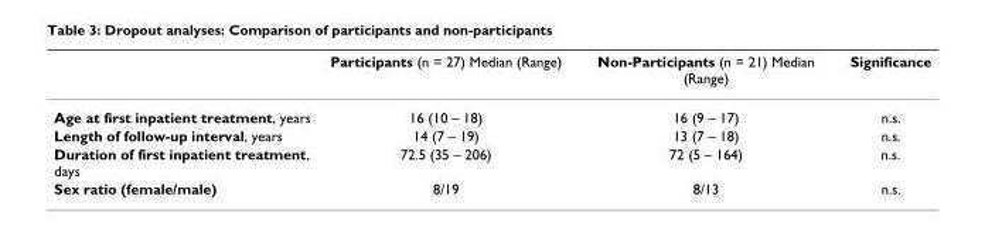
<table><thead><tr><td></td><td>Participants (n = 27) Median (Range)</td><td>Non-Participants (n = 21) Median (Range)</td><td>Significance</td></tr></thead><tbody><tr><td>Age at first inpatient treatment, years</td><td>16 (10 – 18)</td><td>16 (9 – 17)</td><td>n.s.</td></tr><tr><td>Length of follow-up interval, years</td><td>14 (7 – 19)</td><td>13 (7 – 18)</td><td>n.s.</td></tr><tr><td>Duration of first inpatient treatment, days</td><td>72.5 (35 – 206)</td><td>72 (5 – 164)</td><td>n.s.</td></tr><tr><td>Sex ratio (female/male)</td><td>8/19</td><td>8/13</td><td>n.s.</td></tr></tbody></table>